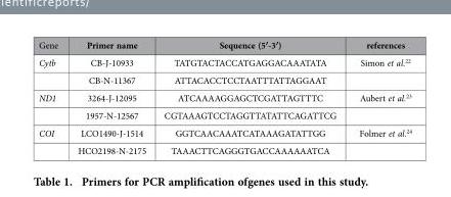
<table><thead><tr><td>Gene</td><td>Primer name</td><td>Sequence (5′-3′)</td><td>references</td></tr></thead><tbody><tr><td rowspan="2">Cytb</td><td>CB-J-10933</td><td>TATGTACTACCATGAGGACAAATATA</td><td>Simon et al.<sup>22</sup></td></tr><tr><td>CB-N-11367</td><td>ATTACACCTCCTAATTTATTAGGAAT</td><td></td></tr><tr><td rowspan="2">ND1</td><td>3264-J-12095</td><td>ATCAAAAGGAGCTCGATTAGTTTC</td><td>Aubert et al.<sup>23</sup></td></tr><tr><td>1957-N-12567</td><td>CGTAAAGTCCTAGGTTATATTCAGATTCG</td><td></td></tr><tr><td rowspan="2">COI</td><td>LCO1490-J-1514</td><td>GGTCAACAAATCATAAAGATATTGG</td><td>Folmer et al.<sup>24</sup></td></tr><tr><td>HCO2198-N-2175</td><td>TAAACTTCAGGGTGACCAAAAAATCA</td><td></td></tr></tbody></table>